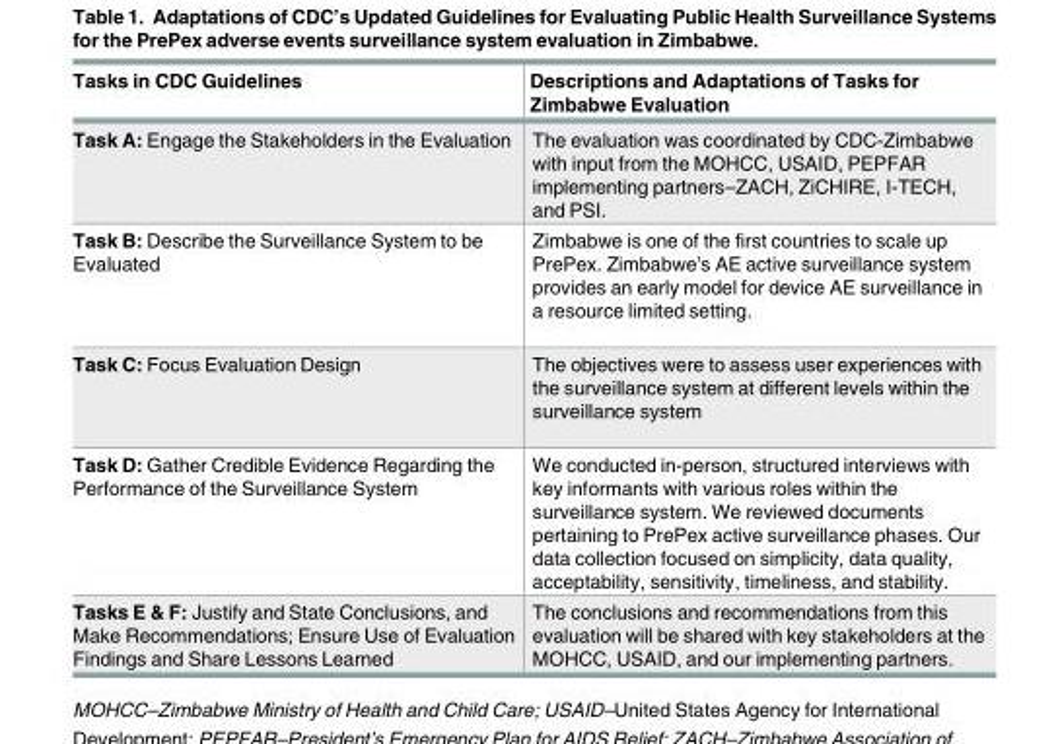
<table><thead><tr><td>Tasks in CDC Guidelines</td><td>Descriptions and Adaptations of Tasks for Zimbabwe Evaluation</td></tr></thead><tbody><tr><td>Task A: Engage the Stakeholders in the Evaluation</td><td>The evaluation was coordinated by CDC-Zimbabwe with input from the MOHCC, USAID, PEPFAR implementing partners–ZACH, ZiCHIRE, I-TECH, and PSI.</td></tr><tr><td>Task B: Describe the Surveillance System to be Evaluated</td><td>Zimbabwe is one of the first countries to scale up PrePex. Zimbabwe’s AE active surveillance system provides an early model for device AE surveillance in a resource limited setting.</td></tr><tr><td>Task C: Focus Evaluation Design</td><td>The objectives were to assess user experiences with the surveillance system at different levels within the surveillance system</td></tr><tr><td>Task D: Gather Credible Evidence Regarding the Performance of the Surveillance System</td><td>We conducted in-person, structured interviews with key informants with various roles within the surveillance system. We reviewed documents pertaining to PrePex active surveillance phases. Our data collection focused on simplicity, data quality, acceptability, sensitivity, timeliness, and stability.</td></tr><tr><td>Tasks E &amp; F: Justify and State Conclusions, and Make Recommendations; Ensure Use of Evaluation Findings and Share Lessons Learned</td><td>The conclusions and recommendations from this evaluation will be shared with key stakeholders at the MOHCC, USAID, and our implementing partners.</td></tr></tbody></table>